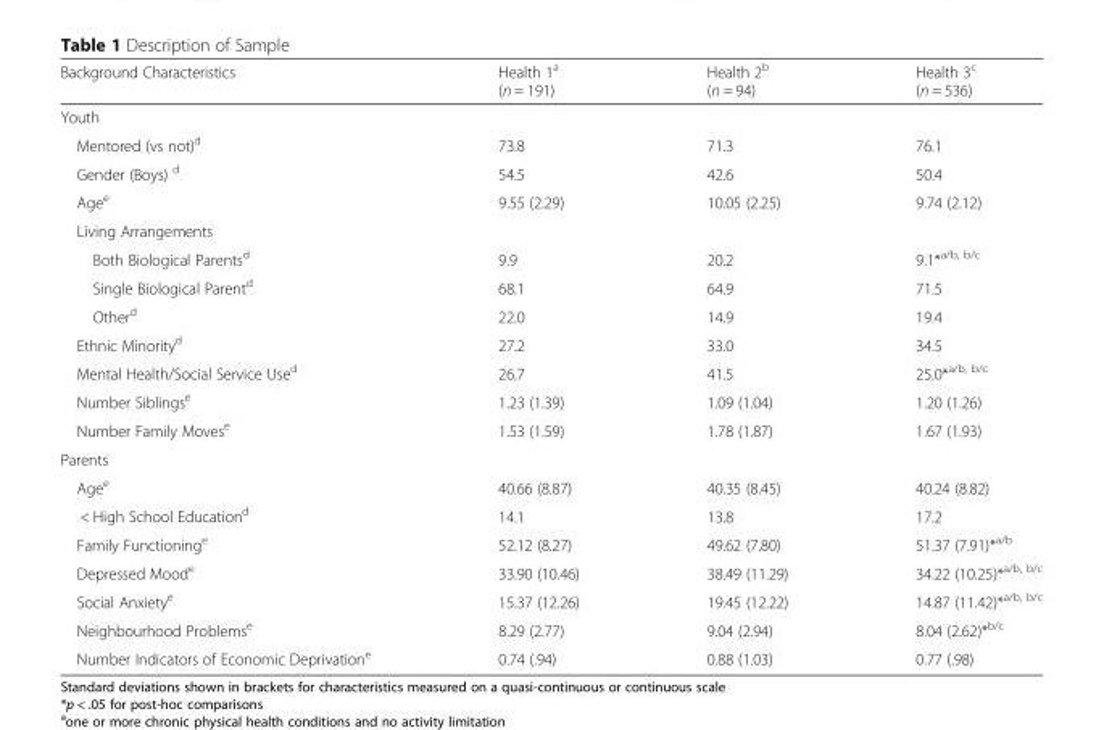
<table><thead><tr><td>Background Characteristics</td><td>Health 1<sup>a</sup> (n = 191)</td><td>Health 2<sup>b</sup> (n = 94)</td><td>Health 3<sup>c</sup> (n = 536)</td></tr></thead><tbody><tr><td colspan="4">Youth</td></tr><tr><td>Mentored (vs not)<sup>d</sup></td><td>73.8</td><td>71.3</td><td>76.1</td></tr><tr><td>Gender (Boys) <sup>d</sup></td><td>54.5</td><td>42.6</td><td>50.4</td></tr><tr><td>Age<sup>e</sup></td><td>9.55 (2.29)</td><td>10.05 (2.25)</td><td>9.74 (2.12)</td></tr><tr><td colspan="4">Living Arrangements</td></tr><tr><td>Both Biological Parents<sup>d</sup></td><td>9.9</td><td>20.2</td><td>9.1*<sup>a/b, b/c</sup></td></tr><tr><td>Single Biological Parent<sup>d</sup></td><td>68.1</td><td>64.9</td><td>71.5</td></tr><tr><td>Other<sup>d</sup></td><td>22.0</td><td>14.9</td><td>19.4</td></tr><tr><td>Ethnic Minority<sup>d</sup></td><td>27.2</td><td>33.0</td><td>34.5</td></tr><tr><td>Mental Health/Social Service Use<sup>d</sup></td><td>26.7</td><td>41.5</td><td>25.0*<sup>a/b, b/c</sup></td></tr><tr><td>Number Siblings<sup>e</sup></td><td>1.23 (1.39)</td><td>1.09 (1.04)</td><td>1.20 (1.26)</td></tr><tr><td>Number Family Moves<sup>e</sup></td><td>1.53 (1.59)</td><td>1.78 (1.87)</td><td>1.67 (1.93)</td></tr><tr><td colspan="4">Parents</td></tr><tr><td>Age<sup>e</sup></td><td>40.66 (8.87)</td><td>40.35 (8.45)</td><td>40.24 (8.82)</td></tr><tr><td>&lt; High School Education<sup>d</sup></td><td>14.1</td><td>13.8</td><td>17.2</td></tr><tr><td>Family Functioning<sup>e</sup></td><td>52.12 (8.27)</td><td>49.62 (7.80)</td><td>51.37 (7.91)*<sup>a/b</sup></td></tr><tr><td>Depressed Mood<sup>e</sup></td><td>33.90 (10.46)</td><td>38.49 (11.29)</td><td>34.22 (10.25)*<sup>a/b, b/c</sup></td></tr><tr><td>Social Anxiety<sup>e</sup></td><td>15.37 (12.26)</td><td>19.45 (12.22)</td><td>14.87 (11.42)*<sup>a/b, b/c</sup></td></tr><tr><td>Neighbourhood Problems<sup>e</sup></td><td>8.29 (2.77)</td><td>9.04 (2.94)</td><td>8.04 (2.62)*<sup>b/c</sup></td></tr><tr><td>Number Indicators of Economic Deprivation<sup>e</sup></td><td>0.74 (.94)</td><td>0.88 (1.03)</td><td>0.77 (.98)</td></tr></tbody></table>